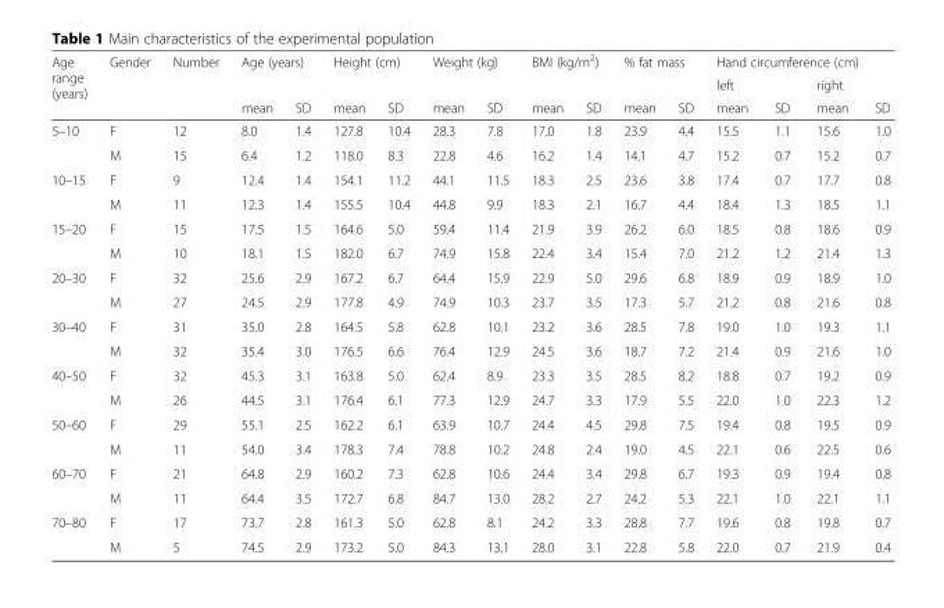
<table><thead><tr><td rowspan="3">Age range (years)</td><td rowspan="3">Gender</td><td rowspan="3">Number</td><td rowspan="2" colspan="2">Age (years)</td><td rowspan="2" colspan="2">Height (cm)</td><td rowspan="2" colspan="2">Weight (kg)</td><td rowspan="2" colspan="2">BMI (kg/m<sup>2</sup>)</td><td rowspan="2" colspan="2">% fat mass</td><td colspan="4">Hand circumference (cm)</td></tr><tr><td colspan="2">left</td><td colspan="2">right</td></tr><tr><td>mean</td><td>SD</td><td>mean</td><td>SD</td><td>mean</td><td>SD</td><td>mean</td><td>SD</td><td>mean</td><td>SD</td><td>mean</td><td>SD</td><td>mean</td><td>SD</td></tr></thead><tbody><tr><td rowspan="2">5–10</td><td>F</td><td>12</td><td>8.0</td><td>1.4</td><td>127.8</td><td>10.4</td><td>28.3</td><td>7.8</td><td>17.0</td><td>1.8</td><td>23.9</td><td>4.4</td><td>15.5</td><td>1.1</td><td>15.6</td><td>1.0</td></tr><tr><td>M</td><td>15</td><td>6.4</td><td>1.2</td><td>118.0</td><td>8.3</td><td>22.8</td><td>4.6</td><td>16.2</td><td>1.4</td><td>14.1</td><td>4.7</td><td>15.2</td><td>0.7</td><td>15.2</td><td>0.7</td></tr><tr><td rowspan="2">10–15</td><td>F</td><td>9</td><td>12.4</td><td>1.4</td><td>154.1</td><td>11.2</td><td>44.1</td><td>11.5</td><td>18.3</td><td>2.5</td><td>23.6</td><td>3.8</td><td>17.4</td><td>0.7</td><td>17.7</td><td>0.8</td></tr><tr><td>M</td><td>11</td><td>12.3</td><td>1.4</td><td>155.5</td><td>10.4</td><td>44.8</td><td>9.9</td><td>18.3</td><td>2.1</td><td>16.7</td><td>4.4</td><td>18.4</td><td>1.3</td><td>18.5</td><td>1.1</td></tr><tr><td rowspan="2">15–20</td><td>F</td><td>15</td><td>17.5</td><td>1.5</td><td>164.6</td><td>5.0</td><td>59.4</td><td>11.4</td><td>21.9</td><td>3.9</td><td>26.2</td><td>6.0</td><td>18.5</td><td>0.8</td><td>18.6</td><td>0.9</td></tr><tr><td>M</td><td>10</td><td>18.1</td><td>1.5</td><td>182.0</td><td>6.7</td><td>74.9</td><td>15.8</td><td>22.4</td><td>3.4</td><td>15.4</td><td>7.0</td><td>21.2</td><td>1.2</td><td>21.4</td><td>1.3</td></tr><tr><td rowspan="2">20–30</td><td>F</td><td>32</td><td>25.6</td><td>2.9</td><td>167.2</td><td>6.7</td><td>64.4</td><td>15.9</td><td>22.9</td><td>5.0</td><td>29.6</td><td>6.8</td><td>18.9</td><td>0.9</td><td>18.9</td><td>1.0</td></tr><tr><td>M</td><td>27</td><td>24.5</td><td>2.9</td><td>177.8</td><td>4.9</td><td>74.9</td><td>10.3</td><td>23.7</td><td>3.5</td><td>17.3</td><td>5.7</td><td>21.2</td><td>0.8</td><td>21.6</td><td>0.8</td></tr><tr><td rowspan="2">30–40</td><td>F</td><td>31</td><td>35.0</td><td>2.8</td><td>164.5</td><td>5.8</td><td>62.8</td><td>10.1</td><td>23.2</td><td>3.6</td><td>28.5</td><td>7.8</td><td>19.0</td><td>1.0</td><td>19.3</td><td>1.1</td></tr><tr><td>M</td><td>32</td><td>35.4</td><td>3.0</td><td>176.5</td><td>6.6</td><td>76.4</td><td>12.9</td><td>24.5</td><td>3.6</td><td>18.7</td><td>7.2</td><td>21.4</td><td>0.9</td><td>21.6</td><td>1.0</td></tr><tr><td rowspan="2">40–50</td><td>F</td><td>32</td><td>45.3</td><td>3.1</td><td>163.8</td><td>5.0</td><td>62.4</td><td>8.9</td><td>23.3</td><td>3.5</td><td>28.5</td><td>8.2</td><td>18.8</td><td>0.7</td><td>19.2</td><td>0.9</td></tr><tr><td>M</td><td>26</td><td>44.5</td><td>3.1</td><td>176.4</td><td>6.1</td><td>77.3</td><td>12.9</td><td>24.7</td><td>3.3</td><td>17.9</td><td>5.5</td><td>22.0</td><td>1.0</td><td>22.3</td><td>1.2</td></tr><tr><td rowspan="2">50–60</td><td>F</td><td>29</td><td>55.1</td><td>2.5</td><td>162.2</td><td>6.1</td><td>63.9</td><td>10.7</td><td>24.4</td><td>4.5</td><td>29.8</td><td>7.5</td><td>19.4</td><td>0.8</td><td>19.5</td><td>0.9</td></tr><tr><td>M</td><td>11</td><td>54.0</td><td>3.4</td><td>178.3</td><td>7.4</td><td>78.8</td><td>10.2</td><td>24.8</td><td>2.4</td><td>19.0</td><td>4.5</td><td>22.1</td><td>0.6</td><td>22.5</td><td>0.6</td></tr><tr><td rowspan="2">60–70</td><td>F</td><td>21</td><td>64.8</td><td>2.9</td><td>160.2</td><td>7.3</td><td>62.8</td><td>10.6</td><td>24.4</td><td>3.4</td><td>29.8</td><td>6.7</td><td>19.3</td><td>0.9</td><td>19.4</td><td>0.8</td></tr><tr><td>M</td><td>11</td><td>64.4</td><td>3.5</td><td>172.7</td><td>6.8</td><td>84.7</td><td>13.0</td><td>28.2</td><td>2.7</td><td>24.2</td><td>5.3</td><td>22.1</td><td>1.0</td><td>22.1</td><td>1.1</td></tr><tr><td rowspan="2">70–80</td><td>F</td><td>17</td><td>73.7</td><td>2.8</td><td>161.3</td><td>5.0</td><td>62.8</td><td>8.1</td><td>24.2</td><td>3.3</td><td>28.8</td><td>7.7</td><td>19.6</td><td>0.8</td><td>19.8</td><td>0.7</td></tr><tr><td>M</td><td>5</td><td>74.5</td><td>2.9</td><td>173.2</td><td>5.0</td><td>84.3</td><td>13.1</td><td>28.0</td><td>3.1</td><td>22.8</td><td>5.8</td><td>22.0</td><td>0.7</td><td>21.9</td><td>0.4</td></tr></tbody></table>